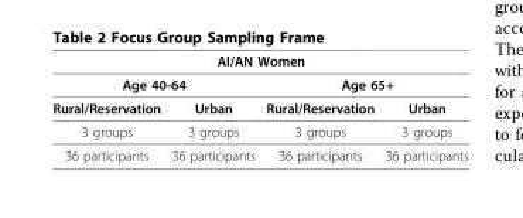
<table><thead><tr><td colspan="4">AI/AN Women</td></tr><tr><td colspan="2">Age 40-64</td><td colspan="2">Age 65+</td></tr><tr><td>Rural/Reservation</td><td>Urban</td><td>Rural/Reservation</td><td>Urban</td></tr></thead><tbody><tr><td>3 groups</td><td>3 groups</td><td>3 groups</td><td>3 groups</td></tr><tr><td>36 participants</td><td>36 participants</td><td>36 participants</td><td>36 participants</td></tr></tbody></table>